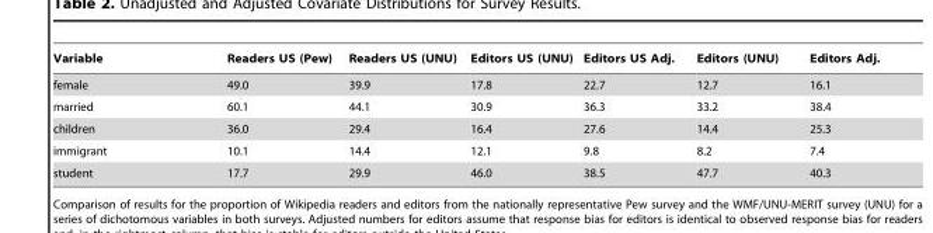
<table><thead><tr><td>Variable</td><td>Readers US (Pew)</td><td>Readers US (UNU)</td><td>Editors US (UNU)</td><td>Editors US Adj.</td><td>Editors (UNU)</td><td>Editors Adj.</td></tr></thead><tbody><tr><td>female</td><td>49.0</td><td>39.9</td><td>17.8</td><td>22.7</td><td>12.7</td><td>16.1</td></tr><tr><td>married</td><td>60.1</td><td>44.1</td><td>30.9</td><td>36.3</td><td>33.2</td><td>38.4</td></tr><tr><td>children</td><td>36.0</td><td>29.4</td><td>16.4</td><td>27.6</td><td>14.4</td><td>25.3</td></tr><tr><td>immigrant</td><td>10.1</td><td>14.4</td><td>12.1</td><td>9.8</td><td>8.2</td><td>7.4</td></tr><tr><td>student</td><td>17.7</td><td>29.9</td><td>46.0</td><td>38.5</td><td>47.7</td><td>40.3</td></tr></tbody></table>